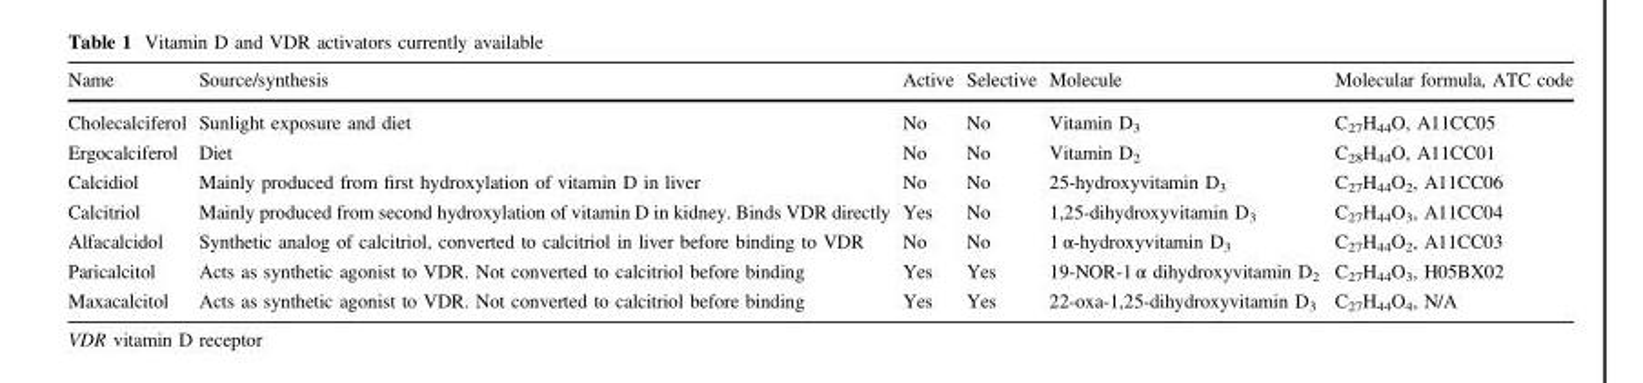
<table><thead><tr><td>Name</td><td>Source/synthesis</td><td>Active</td><td>Selective</td><td>Molecule</td><td>Molecular formula, ATC code</td></tr></thead><tbody><tr><td>Cholecalciferol</td><td>Sunlight exposure and diet</td><td>No</td><td>No</td><td>Vitamin D<sub>3</sub></td><td>C<sub>27</sub>H<sub>44</sub>O, A11CC05</td></tr><tr><td>Ergocalciferol</td><td>Diet</td><td>No</td><td>No</td><td>Vitamin D<sub>2</sub></td><td>C<sub>28</sub>H<sub>44</sub>O, A11CC01</td></tr><tr><td>Calcidiol</td><td>Mainly produced from first hydroxylation of vitamin D in liver</td><td>No</td><td>No</td><td>25-hydroxyvitamin D<sub>3</sub></td><td>C<sub>27</sub>H<sub>44</sub>O<sub>2</sub>, A11CC06</td></tr><tr><td>Calcitriol</td><td>Mainly produced from second hydroxylation of vitamin D in kidney. Binds VDR directly</td><td>Yes</td><td>No</td><td>1,25-dihydroxyvitamin D<sub>3</sub></td><td>C<sub>27</sub>H<sub>44</sub>O<sub>3</sub>, A11CC04</td></tr><tr><td>Alfacalcidol</td><td>Synthetic analog of calcitriol, converted to calcitriol in liver before binding to VDR</td><td>No</td><td>No</td><td>1 α-hydroxyvitamin D<sub>3</sub></td><td>C<sub>27</sub>H<sub>44</sub>O<sub>2</sub>, A11CC03</td></tr><tr><td>Paricalcitol</td><td>Acts as synthetic agonist to VDR. Not converted to calcitriol before binding</td><td>Yes</td><td>Yes</td><td>19-NOR-1 α dihydroxyvitamin D<sub>2</sub></td><td>C<sub>27</sub>H<sub>44</sub>O<sub>3</sub>, H05BX02</td></tr><tr><td>Maxacalcitol</td><td>Acts as synthetic agonist to VDR. Not converted to calcitriol before binding</td><td>Yes</td><td>Yes</td><td>22-oxa-1,25-dihydroxyvitamin D<sub>3</sub></td><td>C<sub>27</sub>H<sub>44</sub>O<sub>4</sub>, N/A</td></tr></tbody></table>